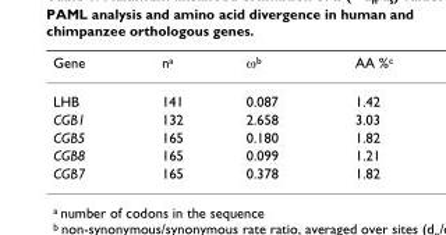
<table><thead><tr><td>Gene</td><td>n<sup>a</sup></td><td>ω<sup>b</sup></td><td>AA %<sup>c</sup></td></tr></thead><tbody><tr><td>LHB</td><td>141</td><td>0.087</td><td>1.42</td></tr><tr><td>CGB1</td><td>132</td><td>2.658</td><td>3.03</td></tr><tr><td>CGB5</td><td>165</td><td>0.180</td><td>1.82</td></tr><tr><td>CGB8</td><td>165</td><td>0.099</td><td>1.21</td></tr><tr><td>CGB7</td><td>165</td><td>0.378</td><td>1.82</td></tr></tbody></table>